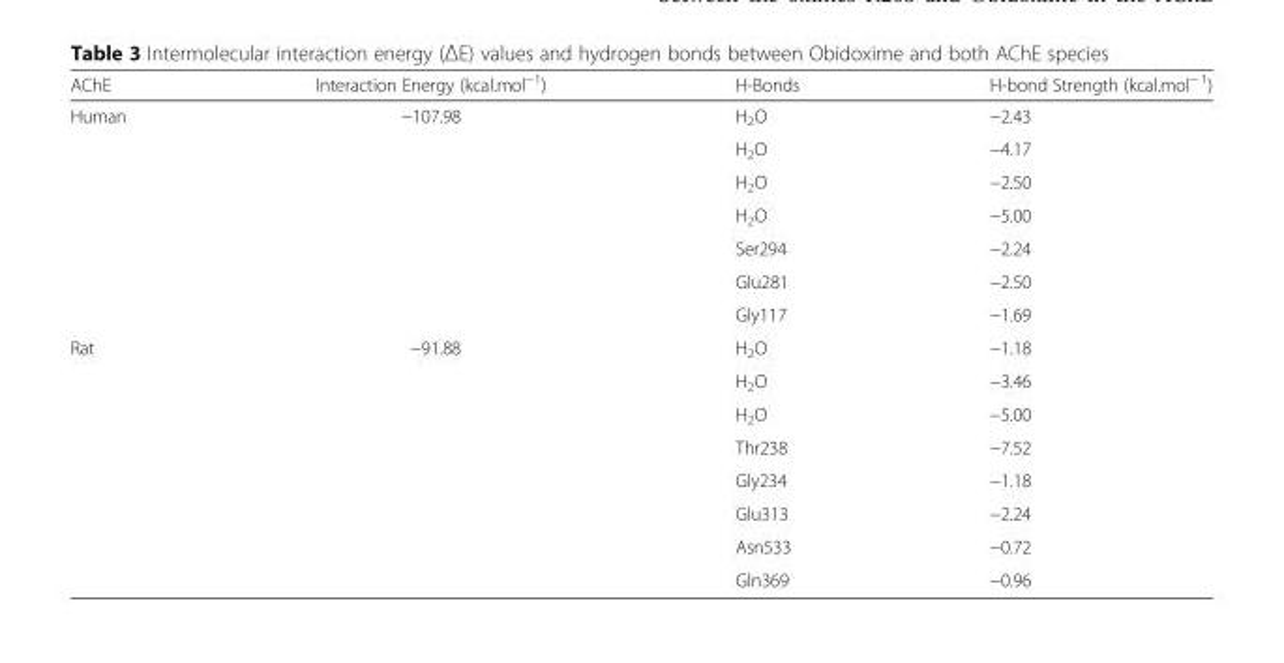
<table><thead><tr><td>AChE</td><td>Interaction Energy (kcal.mol<sup>−1</sup>)</td><td>H-Bonds</td><td>H-bond Strength (kcal.mol<sup>− 1</sup>)</td></tr></thead><tbody><tr><td rowspan="7">Human</td><td rowspan="7">−107.98</td><td>H<sub>2</sub>O</td><td>−2.43</td></tr><tr><td>H<sub>2</sub>O</td><td>−4.17</td></tr><tr><td>H<sub>2</sub>O</td><td>−2.50</td></tr><tr><td>H<sub>2</sub>O</td><td>−5.00</td></tr><tr><td>Ser294</td><td>−2.24</td></tr><tr><td>Glu281</td><td>−2.50</td></tr><tr><td>Gly117</td><td>−1.69</td></tr><tr><td rowspan="8">Rat</td><td rowspan="8">−91.88</td><td>H<sub>2</sub>O</td><td>−1.18</td></tr><tr><td>H<sub>2</sub>O</td><td>−3.46</td></tr><tr><td>H<sub>2</sub>O</td><td>−5.00</td></tr><tr><td>Thr238</td><td>−7.52</td></tr><tr><td>Gly234</td><td>−1.18</td></tr><tr><td>Glu313</td><td>−2.24</td></tr><tr><td>Asn533</td><td>−0.72</td></tr><tr><td>Gln369</td><td>−0.96</td></tr></tbody></table>